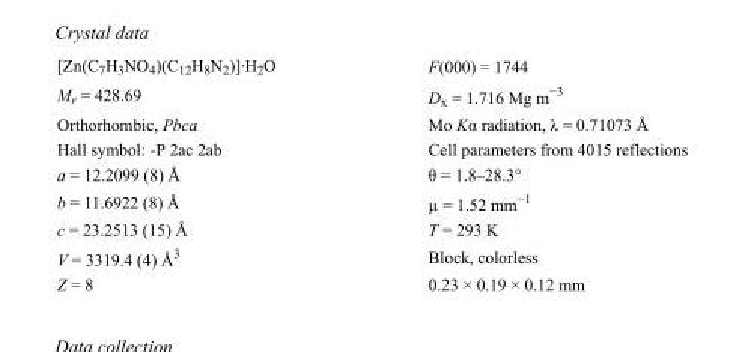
<table><tbody><tr><td>[Zn(C<sub>7</sub>H<sub>3</sub>NO<sub>4</sub>)(C<sub>12</sub>H<sub>8</sub>N<sub>2</sub>)]·H<sub>2</sub>O</td><td>F(000) = 1744</td></tr><tr><td>M<sub>r</sub> = 428.69</td><td>D<sub>x</sub> = 1.716 Mg m<sup>−3</sup></td></tr><tr><td>Orthorhombic, Pbca</td><td>Mo Kα radiation, λ = 0.71073 Å</td></tr><tr><td>Hall symbol: -P 2ac 2ab</td><td>Cell parameters from 4015 reflections</td></tr><tr><td>a = 12.2099 (8) Å</td><td>θ = 1.8–28.3°</td></tr><tr><td>b = 11.6922 (8) Å</td><td>µ = 1.52 mm<sup>−1</sup></td></tr><tr><td>c = 23.2513 (15) Å</td><td>T = 293 K</td></tr><tr><td>V = 3319.4 (4) Å<sup>3</sup></td><td>Block, colorless</td></tr><tr><td>Z = 8</td><td>0.23 × 0.19 × 0.12 mm</td></tr></tbody></table>